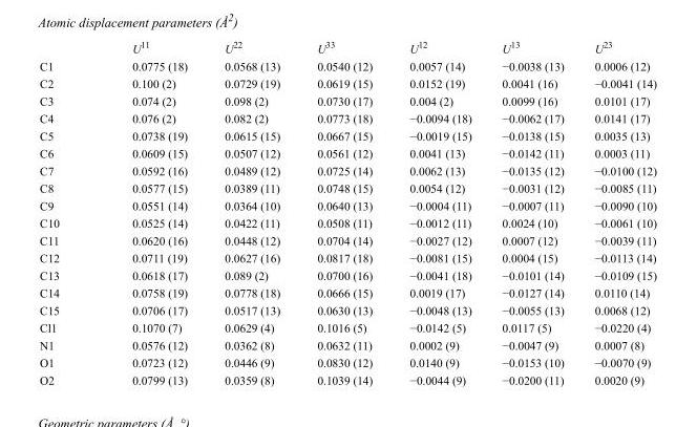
<table><thead><tr><td></td><td>U<sup>11</sup></td><td>U<sup>22</sup></td><td>U<sup>33</sup></td><td>U<sup>12</sup></td><td>U<sup>13</sup></td><td>U<sup>23</sup></td></tr></thead><tbody><tr><td>C1</td><td>0.0775 (18)</td><td>0.0568 (13)</td><td>0.0540 (12)</td><td>0.0057 (14)</td><td>−0.0038 (13)</td><td>0.0006 (12)</td></tr><tr><td>C2</td><td>0.100 (2)</td><td>0.0729 (19)</td><td>0.0619 (15)</td><td>0.0152 (19)</td><td>0.0041 (16)</td><td>−0.0041 (14)</td></tr><tr><td>C3</td><td>0.074 (2)</td><td>0.098 (2)</td><td>0.0730 (17)</td><td>0.004 (2)</td><td>0.0099 (16)</td><td>0.0101 (17)</td></tr><tr><td>C4</td><td>0.076 (2)</td><td>0.082 (2)</td><td>0.0773 (18)</td><td>−0.0094 (18)</td><td>−0.0062 (17)</td><td>0.0141 (17)</td></tr><tr><td>C5</td><td>0.0738 (19)</td><td>0.0615 (15)</td><td>0.0667 (15)</td><td>−0.0019 (15)</td><td>−0.0138 (15)</td><td>0.0035 (13)</td></tr><tr><td>C6</td><td>0.0609 (15)</td><td>0.0507 (12)</td><td>0.0561 (12)</td><td>0.0041 (13)</td><td>−0.0142 (11)</td><td>0.0003 (11)</td></tr><tr><td>C7</td><td>0.0592 (16)</td><td>0.0489 (12)</td><td>0.0725 (14)</td><td>0.0062 (13)</td><td>−0.0135 (12)</td><td>−0.0100 (12)</td></tr><tr><td>C8</td><td>0.0577 (15)</td><td>0.0389 (11)</td><td>0.0748 (15)</td><td>0.0054 (12)</td><td>−0.0031 (12)</td><td>−0.0085 (11)</td></tr><tr><td>C9</td><td>0.0551 (14)</td><td>0.0364 (10)</td><td>0.0640 (13)</td><td>−0.0004 (11)</td><td>−0.0007 (11)</td><td>−0.0090 (10)</td></tr><tr><td>C10</td><td>0.0525 (14)</td><td>0.0422 (11)</td><td>0.0508 (11)</td><td>−0.0012 (11)</td><td>0.0024 (10)</td><td>−0.0061 (10)</td></tr><tr><td>C11</td><td>0.0620 (16)</td><td>0.0448 (12)</td><td>0.0704 (14)</td><td>−0.0027 (12)</td><td>0.0007 (12)</td><td>−0.0039 (11)</td></tr><tr><td>C12</td><td>0.0711 (19)</td><td>0.0627 (16)</td><td>0.0817 (18)</td><td>−0.0081 (15)</td><td>0.0004 (15)</td><td>−0.0113 (14)</td></tr><tr><td>C13</td><td>0.0618 (17)</td><td>0.089 (2)</td><td>0.0700 (16)</td><td>−0.0041 (18)</td><td>−0.0101 (14)</td><td>−0.0109 (15)</td></tr><tr><td>C14</td><td>0.0758 (19)</td><td>0.0778 (18)</td><td>0.0666 (15)</td><td>0.0019 (17)</td><td>−0.0127 (14)</td><td>0.0110 (14)</td></tr><tr><td>C15</td><td>0.0706 (17)</td><td>0.0517 (13)</td><td>0.0630 (13)</td><td>−0.0048 (13)</td><td>−0.0055 (13)</td><td>0.0068 (12)</td></tr><tr><td>Cl1</td><td>0.1070 (7)</td><td>0.0629 (4)</td><td>0.1016 (5)</td><td>−0.0142 (5)</td><td>0.0117 (5)</td><td>−0.0220 (4)</td></tr><tr><td>N1</td><td>0.0576 (12)</td><td>0.0362 (8)</td><td>0.0632 (11)</td><td>0.0002 (9)</td><td>−0.0047 (9)</td><td>0.0007 (8)</td></tr><tr><td>O1</td><td>0.0723 (12)</td><td>0.0446 (9)</td><td>0.0830 (12)</td><td>0.0140 (9)</td><td>−0.0153 (10)</td><td>−0.0070 (9)</td></tr><tr><td>O2</td><td>0.0799 (13)</td><td>0.0359 (8)</td><td>0.1039 (14)</td><td>−0.0044 (9)</td><td>−0.0200 (11)</td><td>0.0020 (9)</td></tr></tbody></table>